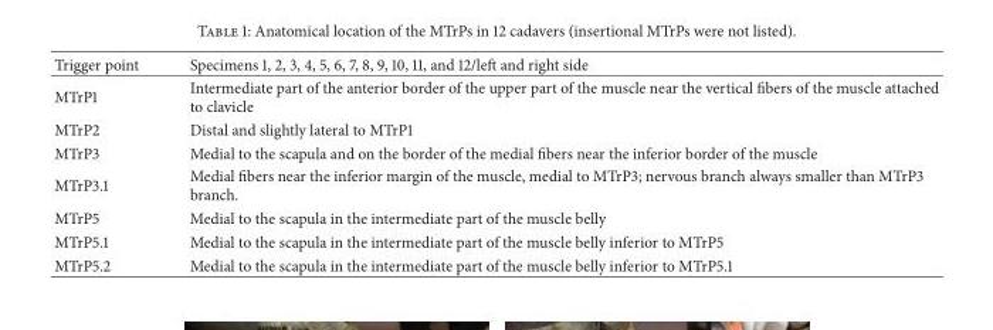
<table><thead><tr><td>Trigger point</td><td>Specimens 1, 2, 3, 4, 5, 6, 7, 8, 9, 10, 11, and 12/left and right side</td></tr></thead><tbody><tr><td>MTrP1</td><td>Intermediate part of the anterior border of the upper part of the muscle near the vertical fibers of the muscle attached to clavicle</td></tr><tr><td>MTrP2</td><td>Distal and slightly lateral to MTrP1</td></tr><tr><td>MTrP3</td><td>Medial to the scapula and on the border of the medial fibers near the inferior border of the muscle</td></tr><tr><td>MTrP3.1</td><td>Medial fibers near the inferior margin of the muscle, medial to MTrP3; nervous branch always smaller than MTrP3 branch.</td></tr><tr><td>MTrP5</td><td>Medial to the scapula in the intermediate part of the muscle belly</td></tr><tr><td>MTrP5.1</td><td>Medial to the scapula in the intermediate part of the muscle belly inferior to MTrP5</td></tr><tr><td>MTrP5.2</td><td>Medial to the scapula in the intermediate part of the muscle belly inferior to MTrP5.1</td></tr></tbody></table>